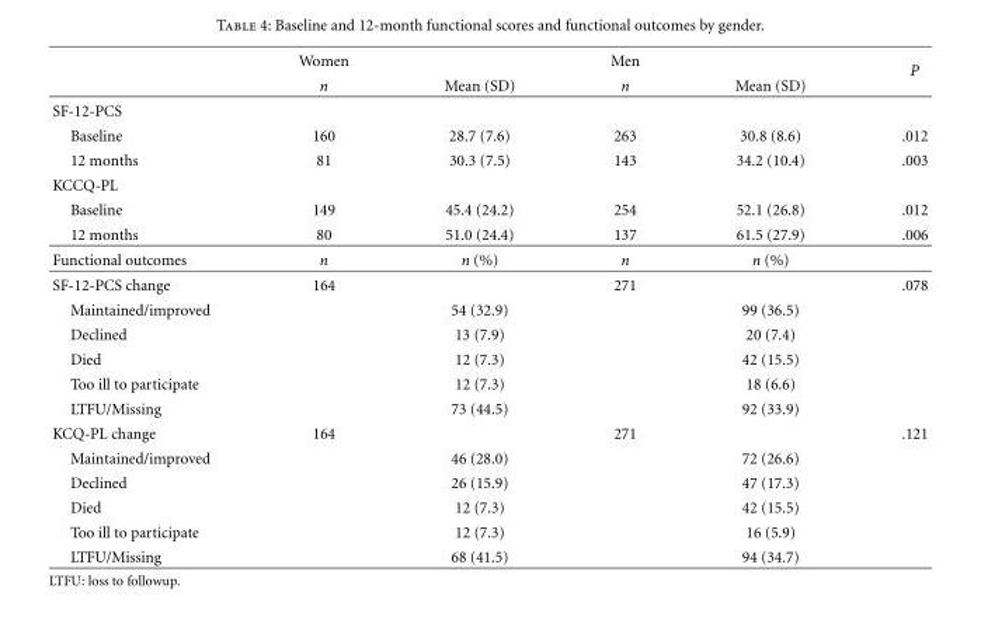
<table><thead><tr><td rowspan="2"></td><td rowspan="2">Women n</td><td rowspan="2">Mean (SD)</td><td rowspan="2">Men n</td><td rowspan="2">Mean (SD)</td><td rowspan="2">P</td></tr><tr></tr></thead><tbody><tr><td colspan="6">SF-12-PCS</td></tr><tr><td>Baseline</td><td>160</td><td>28.7 (7.6)</td><td>263</td><td>30.8 (8.6)</td><td>.012</td></tr><tr><td>12 months</td><td>81</td><td>30.3 (7.5)</td><td>143</td><td>34.2 (10.4)</td><td>.003</td></tr><tr><td colspan="6">KCCQ-PL</td></tr><tr><td>Baseline</td><td>149</td><td>45.4 (24.2)</td><td>254</td><td>52.1 (26.8)</td><td>.012</td></tr><tr><td>12 months</td><td>80</td><td>51.0 (24.4)</td><td>137</td><td>61.5 (27.9)</td><td>.006</td></tr><tr><td>Functional outcomes</td><td>n</td><td>n (%)</td><td>n</td><td>n (%)</td><td></td></tr><tr><td>SF-12-PCS change</td><td>164</td><td></td><td>271</td><td></td><td>.078</td></tr><tr><td>Maintained/improved</td><td></td><td>54 (32.9)</td><td></td><td>99 (36.5)</td><td></td></tr><tr><td>Declined</td><td></td><td>13 (7.9)</td><td></td><td>20 (7.4)</td><td></td></tr><tr><td>Died</td><td></td><td>12 (7.3)</td><td></td><td>42 (15.5)</td><td></td></tr><tr><td>Too ill to participate</td><td></td><td>12 (7.3)</td><td></td><td>18 (6.6)</td><td></td></tr><tr><td>LTFU/Missing</td><td></td><td>73 (44.5)</td><td></td><td>92 (33.9)</td><td></td></tr><tr><td>KCQ-PL change</td><td>164</td><td></td><td>271</td><td></td><td>.121</td></tr><tr><td>Maintained/improved</td><td></td><td>46 (28.0)</td><td></td><td>72 (26.6)</td><td></td></tr><tr><td>Declined</td><td></td><td>26 (15.9)</td><td></td><td>47 (17.3)</td><td></td></tr><tr><td>Died</td><td></td><td>12 (7.3)</td><td></td><td>42 (15.5)</td><td></td></tr><tr><td>Too ill to participate</td><td></td><td>12 (7.3)</td><td></td><td>16 (5.9)</td><td></td></tr><tr><td>LTFU/Missing</td><td></td><td>68 (41.5)</td><td></td><td>94 (34.7)</td><td></td></tr></tbody></table>